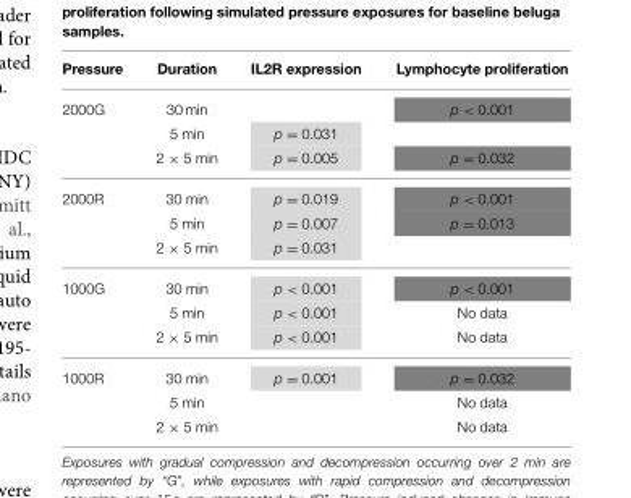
<table><thead><tr><td>Pressure</td><td>Duration</td><td>IL2R expression</td><td>Lymphocyte proliferation</td></tr></thead><tbody><tr><td rowspan="3">2000G</td><td>30 min</td><td></td><td>p &lt; 0.001</td></tr><tr><td>5 min</td><td>p = 0.031</td><td></td></tr><tr><td>2 × 5 min</td><td>p = 0.005</td><td>p = 0.032</td></tr><tr><td rowspan="3">2000R</td><td>30 min</td><td>p = 0.019</td><td>p &lt; 0.001</td></tr><tr><td>5 min</td><td>p = 0.007</td><td>p = 0.013</td></tr><tr><td>2 × 5 min</td><td>p = 0.031</td><td></td></tr><tr><td rowspan="3">1000G</td><td>30 min</td><td>p &lt; 0.001</td><td>p &lt; 0.001</td></tr><tr><td>5 min</td><td>p &lt; 0.001</td><td>No data</td></tr><tr><td>2 × 5 min</td><td>p &lt; 0.001</td><td>No data</td></tr><tr><td rowspan="3">1000R</td><td>30 min</td><td>p = 0.001</td><td>p = 0.032</td></tr><tr><td>5 min</td><td></td><td>No data</td></tr><tr><td>2 × 5 min</td><td></td><td>No data</td></tr></tbody></table>